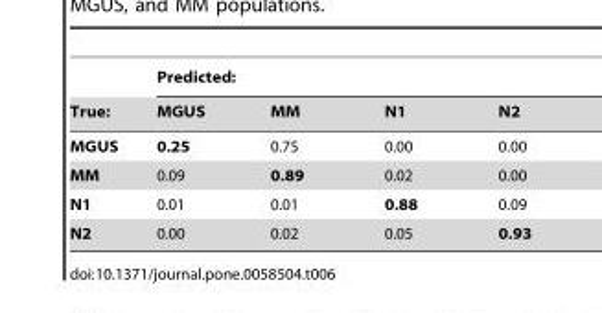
<table><thead><tr><td rowspan="2">True:</td><td colspan="4">Predicted:</td></tr><tr><td>MGUS</td><td>MM</td><td>N1</td><td>N2</td></tr></thead><tbody><tr><td>MGUS</td><td>0.25</td><td>0.75</td><td>0.00</td><td>0.00</td></tr><tr><td>MM</td><td>0.09</td><td>0.89</td><td>0.02</td><td>0.00</td></tr><tr><td>N1</td><td>0.01</td><td>0.01</td><td>0.88</td><td>0.09</td></tr><tr><td>N2</td><td>0.00</td><td>0.02</td><td>0.05</td><td>0.93</td></tr></tbody></table>